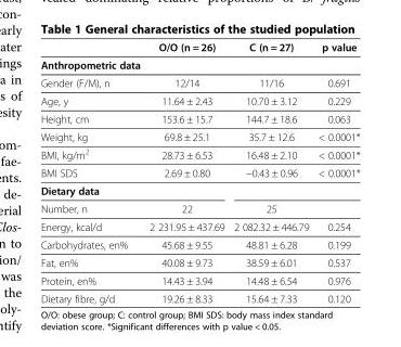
<table><thead><tr><td></td><td>O/O (n = 26)</td><td>C (n = 27)</td><td>p value</td></tr></thead><tbody><tr><td colspan="4">Anthropometric data</td></tr><tr><td>Gender (F/M), n</td><td>12/14</td><td>11/16</td><td>0.691</td></tr><tr><td>Age, y</td><td>11.64 ± 2.43</td><td>10.70 ± 3.12</td><td>0.229</td></tr><tr><td>Height, cm</td><td>153.6 ± 15.7</td><td>144.7 ± 18.6</td><td>0.063</td></tr><tr><td>Weight, kg</td><td>69.8 ± 25.1</td><td>35.7 ± 12.6</td><td>&lt; 0.0001*</td></tr><tr><td>BMI, kg/m<sup>2</sup></td><td>28.73 ± 6.53</td><td>16.48 ± 2.10</td><td>&lt; 0.0001*</td></tr><tr><td>BMI SDS</td><td>2.69 ± 0.80</td><td>−0.43 ± 0.96</td><td>&lt; 0.0001*</td></tr><tr><td colspan="4">Dietary data</td></tr><tr><td>Number, n</td><td>22</td><td>25</td><td></td></tr><tr><td>Energy, kcal/d</td><td>2 231.95 ± 437.69</td><td>2 082.32 ± 446.79</td><td>0.254</td></tr><tr><td>Carbohydrates, en%</td><td>45.68 ± 9.55</td><td>48.81 ± 6.28</td><td>0.199</td></tr><tr><td>Fat, en%</td><td>40.08 ± 9.73</td><td>38.59 ± 6.01</td><td>0.537</td></tr><tr><td>Protein, en%</td><td>14.43 ± 3.94</td><td>14.48 ± 6.54</td><td>0.976</td></tr><tr><td>Dietary fibre, g/d</td><td>19.26 ± 8.33</td><td>15.64 ± 7.33</td><td>0.120</td></tr></tbody></table>